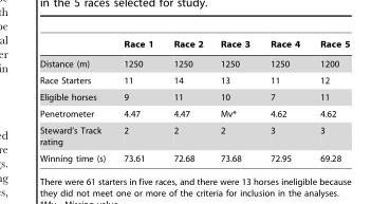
<table><thead><tr><td></td><td>Race 1</td><td>Race 2</td><td>Race 3</td><td>Race 4</td><td>Race 5</td></tr></thead><tbody><tr><td>Distance (m)</td><td>1250</td><td>1250</td><td>1250</td><td>1250</td><td>1200</td></tr><tr><td>Race Starters</td><td>11</td><td>14</td><td>13</td><td>11</td><td>12</td></tr><tr><td>Eligible horses</td><td>9</td><td>11</td><td>10</td><td>7</td><td>11</td></tr><tr><td>Penetrometer</td><td>4.47</td><td>4.47</td><td>Mv*</td><td>4.62</td><td>4.62</td></tr><tr><td>Steward’s Track rating</td><td>2</td><td>2</td><td>2</td><td>3</td><td>3</td></tr><tr><td>Winning time (s)</td><td>73.61</td><td>72.68</td><td>73.68</td><td>72.95</td><td>69.28</td></tr></tbody></table>